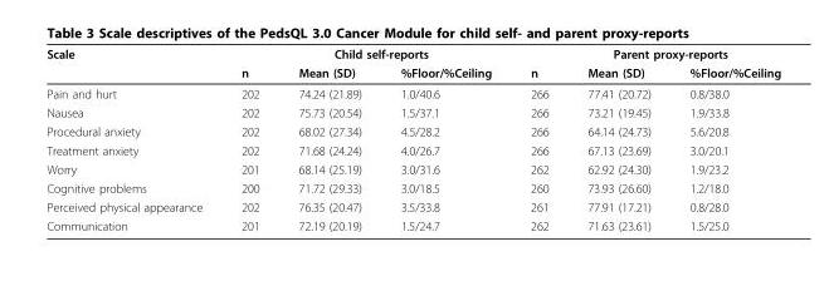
<table><thead><tr><td rowspan="2">Scale</td><td colspan="3">Child self-reports</td><td colspan="3">Parent proxy-reports</td></tr><tr><td>n</td><td>Mean (SD)</td><td>%Floor/%Ceiling</td><td>n</td><td>Mean (SD)</td><td>%Floor/%Ceiling</td></tr></thead><tbody><tr><td>Pain and hurt</td><td>202</td><td>74.24 (21.89)</td><td>1.0/40.6</td><td>266</td><td>77.41 (20.72)</td><td>0.8/38.0</td></tr><tr><td>Nausea</td><td>202</td><td>75.73 (20.54)</td><td>1.5/37.1</td><td>266</td><td>73.21 (19.45)</td><td>1.9/33.8</td></tr><tr><td>Procedural anxiety</td><td>202</td><td>68.02 (27.34)</td><td>4.5/28.2</td><td>266</td><td>64.14 (24.73)</td><td>5.6/20.8</td></tr><tr><td>Treatment anxiety</td><td>202</td><td>71.68 (24.24)</td><td>4.0/26.7</td><td>266</td><td>67.13 (23.69)</td><td>3.0/20.1</td></tr><tr><td>Worry</td><td>201</td><td>68.14 (25.19)</td><td>3.0/31.6</td><td>262</td><td>62.92 (24.30)</td><td>1.9/23.2</td></tr><tr><td>Cognitive problems</td><td>200</td><td>71.72 (29.33)</td><td>3.0/18.5</td><td>260</td><td>73.93 (26.60)</td><td>1.2/18.0</td></tr><tr><td>Perceived physical appearance</td><td>202</td><td>76.35 (20.47)</td><td>3.5/33.8</td><td>261</td><td>77.91 (17.21)</td><td>0.8/28.0</td></tr><tr><td>Communication</td><td>201</td><td>72.19 (20.19)</td><td>1.5/24.7</td><td>262</td><td>71.63 (23.61)</td><td>1.5/25.0</td></tr></tbody></table>